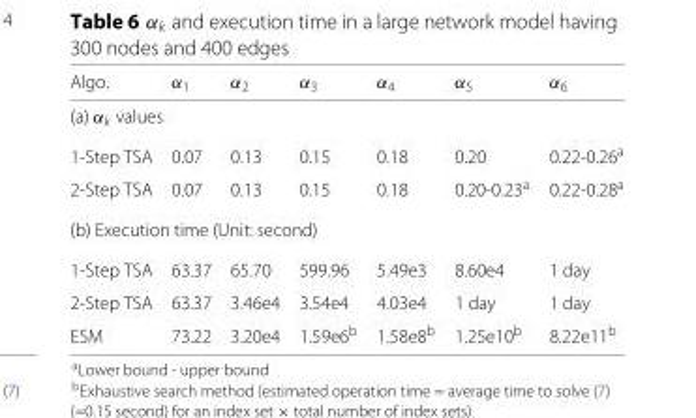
<table><thead><tr><td>Algo.</td><td>α<sub>1</sub></td><td>α<sub>2</sub></td><td>α<sub>3</sub></td><td>α<sub>4</sub></td><td>α<sub>5</sub></td><td>α<sub>6</sub></td></tr></thead><tbody><tr><td colspan="7">(a) α<sub>k</sub> values</td></tr><tr><td>1-Step TSA</td><td>0.07</td><td>0.13</td><td>0.15</td><td>0.18</td><td>0.20</td><td>0.22-0.26<sup>a</sup></td></tr><tr><td>2-Step TSA</td><td>0.07</td><td>0.13</td><td>0.15</td><td>0.18</td><td>0.20-0.23<sup>a</sup></td><td>0.22-0.28<sup>a</sup></td></tr><tr><td colspan="7">(b) Execution time (Unit: second)</td></tr><tr><td>1-Step TSA</td><td>63.37</td><td>65.70</td><td>599.96</td><td>5.49e3</td><td>8.60e4</td><td>1 day</td></tr><tr><td>2-Step TSA</td><td>63.37</td><td>3.46e4</td><td>3.54e4</td><td>4.03e4</td><td>1 day</td><td>1 day</td></tr><tr><td>ESM</td><td>73.22</td><td>3.20e4</td><td>1.59e6<sup>b</sup></td><td>1.58e8<sup>b</sup></td><td>1.25e10<sup>b</sup></td><td>8.22e11<sup>b</sup></td></tr></tbody></table>